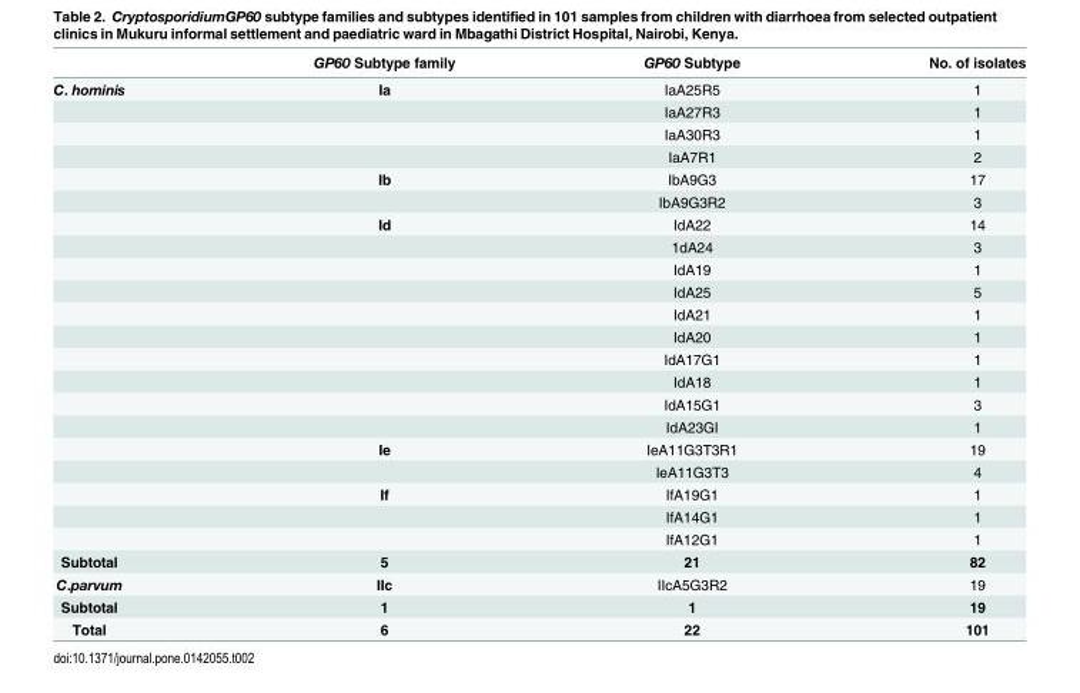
<table><thead><tr><td></td><td>GP60 Subtype family</td><td>GP60 Subtype</td><td>No. of isolates</td></tr></thead><tbody><tr><td rowspan="21">C. hominis</td><td>Ia</td><td>IaA25R5</td><td>1</td></tr><tr><td></td><td>IaA27R3</td><td>1</td></tr><tr><td></td><td>IaA30R3</td><td>1</td></tr><tr><td></td><td>IaA7R1</td><td>2</td></tr><tr><td>Ib</td><td>IbA9G3</td><td>17</td></tr><tr><td></td><td>IbA9G3R2</td><td>3</td></tr><tr><td>Id</td><td>IdA22</td><td>14</td></tr><tr><td></td><td>1dA24</td><td>3</td></tr><tr><td></td><td>IdA19</td><td>1</td></tr><tr><td></td><td>IdA25</td><td>5</td></tr><tr><td></td><td>IdA21</td><td>1</td></tr><tr><td></td><td>IdA20</td><td>1</td></tr><tr><td></td><td>IdA17G1</td><td>1</td></tr><tr><td></td><td>IdA18</td><td>1</td></tr><tr><td></td><td>IdA15G1</td><td>3</td></tr><tr><td></td><td>IdA23GI</td><td>1</td></tr><tr><td>Ie</td><td>IeA11G3T3R1</td><td>19</td></tr><tr><td></td><td>IeA11G3T3</td><td>4</td></tr><tr><td>If</td><td>IfA19G1</td><td>1</td></tr><tr><td></td><td>IfA14G1</td><td>1</td></tr><tr><td></td><td>IfA12G1</td><td>1</td></tr><tr><td>Subtotal</td><td>5</td><td>21</td><td>82</td></tr><tr><td>C.parvum</td><td>IIc</td><td>IIcA5G3R2</td><td>19</td></tr><tr><td>Subtotal</td><td>1</td><td>1</td><td>19</td></tr><tr><td>Total</td><td>6</td><td>22</td><td>101</td></tr></tbody></table>